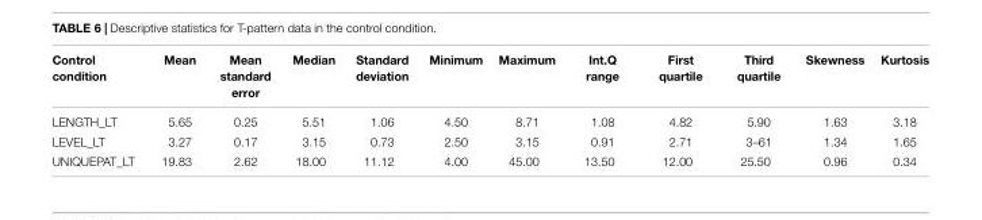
<table><thead><tr><td>Control condition</td><td>Mean</td><td>Mean standard error</td><td>Median</td><td>Standard deviation</td><td>Minimum</td><td>Maximum</td><td>Int.Q range</td><td>First quartile</td><td>Third quartile</td><td>Skewness</td><td>Kurtosis</td></tr></thead><tbody><tr><td>LENGTH_LT</td><td>5.65</td><td>0.25</td><td>5.51</td><td>1.06</td><td>4.50</td><td>8.71</td><td>1.08</td><td>4.82</td><td>5.90</td><td>1.63</td><td>3.18</td></tr><tr><td>LEVEL_LT</td><td>3.27</td><td>0.17</td><td>3.15</td><td>0.73</td><td>2.50</td><td>3.15</td><td>0.91</td><td>2.71</td><td>3–61</td><td>1.34</td><td>1.65</td></tr><tr><td>UNIQUEPAT_LT</td><td>19.83</td><td>2.62</td><td>18.00</td><td>11.12</td><td>4.00</td><td>45.00</td><td>13.50</td><td>12.00</td><td>25.50</td><td>0.96</td><td>0.34</td></tr></tbody></table>